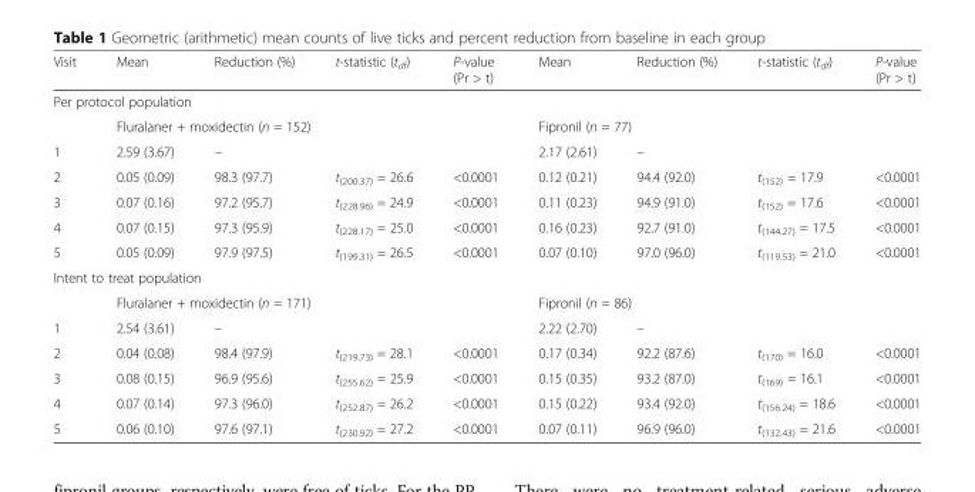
<table><thead><tr><td>Visit</td><td>Mean</td><td>Reduction (%)</td><td>t-statistic (t<sub>df</sub>)</td><td>P-value (Pr &gt; t)</td><td>Mean</td><td>Reduction (%)</td><td>t-statistic (t<sub>df</sub>)</td><td>P-value (Pr &gt; t)</td></tr></thead><tbody><tr><td colspan="9">Per protocol population</td></tr><tr><td></td><td colspan="4">Fluralaner + moxidectin (n = 152)</td><td colspan="4">Fipronil (n = 77)</td></tr><tr><td>1</td><td>2.59 (3.67)</td><td>–</td><td></td><td></td><td>2.17 (2.61)</td><td>–</td><td></td><td></td></tr><tr><td>2</td><td>0.05 (0.09)</td><td>98.3 (97.7)</td><td>t<sub>(200.37)</sub> = 26.6</td><td>&lt;0.0001</td><td>0.12 (0.21)</td><td>94.4 (92.0)</td><td>t<sub>(152)</sub> = 17.9</td><td>&lt;0.0001</td></tr><tr><td>3</td><td>0.07 (0.16)</td><td>97.2 (95.7)</td><td>t<sub>(228.96)</sub> = 24.9</td><td>&lt;0.0001</td><td>0.11 (0.23)</td><td>94.9 (91.0)</td><td>t<sub>(152)</sub> = 17.6</td><td>&lt;0.0001</td></tr><tr><td>4</td><td>0.07 (0.15)</td><td>97.3 (95.9)</td><td>t<sub>(228.17)</sub> = 25.0</td><td>&lt;0.0001</td><td>0.16 (0.23)</td><td>92.7 (91.0)</td><td>t<sub>(144.27)</sub> = 17.5</td><td>&lt;0.0001</td></tr><tr><td>5</td><td>0.05 (0.09)</td><td>97.9 (97.5)</td><td>t<sub>(199.31)</sub> = 26.5</td><td>&lt;0.0001</td><td>0.07 (0.10)</td><td>97.0 (96.0)</td><td>t<sub>(119.53)</sub> = 21.0</td><td>&lt;0.0001</td></tr><tr><td colspan="9">Intent to treat population</td></tr><tr><td></td><td colspan="4">Fluralaner + moxidectin (n = 171)</td><td colspan="4">Fipronil (n = 86)</td></tr><tr><td>1</td><td>2.54 (3.61)</td><td>–</td><td></td><td></td><td>2.22 (2.70)</td><td>–</td><td></td><td></td></tr><tr><td>2</td><td>0.04 (0.08)</td><td>98.4 (97.9)</td><td>t<sub>(219.73)</sub> = 28.1</td><td>&lt;0.0001</td><td>0.17 (0.34)</td><td>92.2 (87.6)</td><td>t<sub>(170)</sub> = 16.0</td><td>&lt;0.0001</td></tr><tr><td>3</td><td>0.08 (0.15)</td><td>96.9 (95.6)</td><td>t<sub>(255.62)</sub> = 25.9</td><td>&lt;0.0001</td><td>0.15 (0.35)</td><td>93.2 (87.0)</td><td>t<sub>(169)</sub> = 16.1</td><td>&lt;0.0001</td></tr><tr><td>4</td><td>0.07 (0.14)</td><td>97.3 (96.0)</td><td>t<sub>(252.87)</sub> = 26.2</td><td>&lt;0.0001</td><td>0.15 (0.22)</td><td>93.4 (92.0)</td><td>t<sub>(156.24)</sub> = 18.6</td><td>&lt;0.0001</td></tr><tr><td>5</td><td>0.06 (0.10)</td><td>97.6 (97.1)</td><td>t<sub>(230.92)</sub> = 27.2</td><td>&lt;0.0001</td><td>0.07 (0.11)</td><td>96.9 (96.0)</td><td>t<sub>(132.43)</sub> = 21.6</td><td>&lt;0.0001</td></tr></tbody></table>